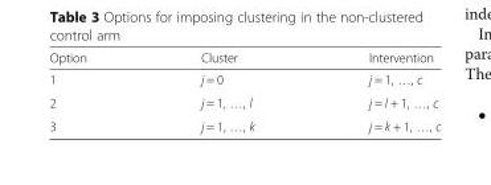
<table><thead><tr><td>Option</td><td>Cluster</td><td>Intervention</td></tr></thead><tbody><tr><td>1</td><td>j = 0</td><td>j = 1, …, c</td></tr><tr><td>2</td><td>j = 1, …, l</td><td>j = l + 1, …, c</td></tr><tr><td>3</td><td>j = 1, …, k</td><td>j = k + 1, …, c</td></tr></tbody></table>